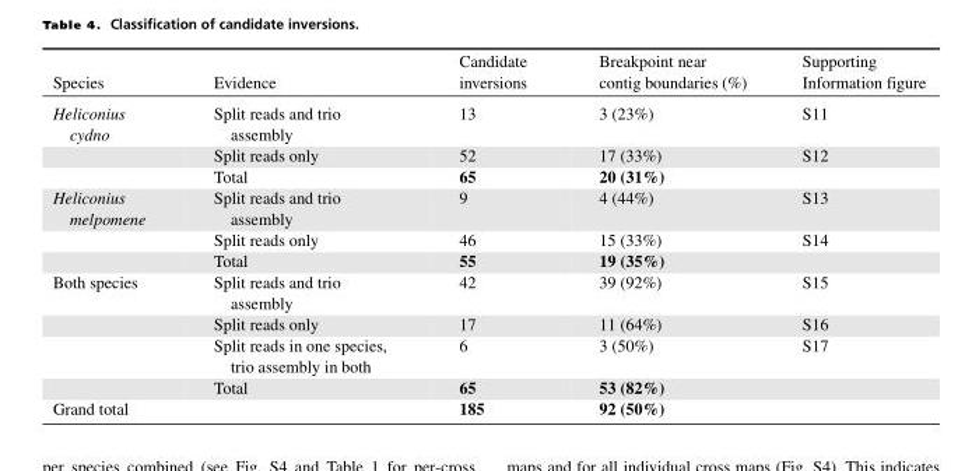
<table><thead><tr><td>Species</td><td>Evidence</td><td>Candidate inversions</td><td>Breakpoint near contig boundaries (%)</td><td>Supporting Information figure</td></tr></thead><tbody><tr><td rowspan="3">Heliconius cydno</td><td>Split reads and trio assembly</td><td>13</td><td>3 (23%)</td><td>S11</td></tr><tr><td>Split reads only</td><td>52</td><td>17 (33%)</td><td>S12</td></tr><tr><td>Total</td><td>65</td><td>20 (31%)</td><td></td></tr><tr><td rowspan="3">Heliconius melpomene</td><td>Split reads and trio assembly</td><td>9</td><td>4 (44%)</td><td>S13</td></tr><tr><td>Split reads only</td><td>46</td><td>15 (33%)</td><td>S14</td></tr><tr><td>Total</td><td>55</td><td>19 (35%)</td><td></td></tr><tr><td rowspan="4">Both species</td><td>Split reads and trio assembly</td><td>42</td><td>39 (92%)</td><td>S15</td></tr><tr><td>Split reads only</td><td>17</td><td>11 (64%)</td><td>S16</td></tr><tr><td>Split reads in one species, trio assembly in both</td><td>6</td><td>3 (50%)</td><td>S17</td></tr><tr><td>Total</td><td>65</td><td>53 (82%)</td><td></td></tr><tr><td>Grand total</td><td></td><td>185</td><td>92 (50%)</td><td></td></tr></tbody></table>